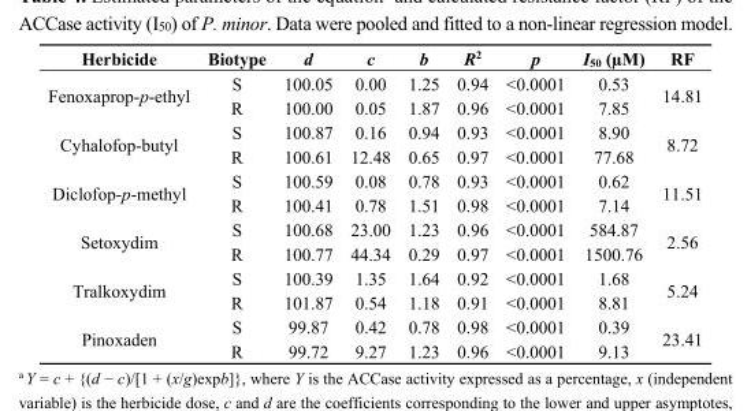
<table><thead><tr><td>Herbicide</td><td>Biotype</td><td>d</td><td>c</td><td>b</td><td>R<sup>2</sup></td><td>p</td><td>I<sub>50</sub> (µM)</td><td>RF</td></tr></thead><tbody><tr><td rowspan="2">Fenoxaprop-p-ethyl</td><td>S</td><td>100.05</td><td>0.00</td><td>1.25</td><td>0.94</td><td>&lt;0.0001</td><td>0.53</td><td rowspan="2">14.81</td></tr><tr><td>R</td><td>100.00</td><td>0.05</td><td>1.87</td><td>0.96</td><td>&lt;0.0001</td><td>7.85</td></tr><tr><td rowspan="2">Cyhalofop-butyl</td><td>S</td><td>100.87</td><td>0.16</td><td>0.94</td><td>0.93</td><td>&lt;0.0001</td><td>8.90</td><td rowspan="2">8.72</td></tr><tr><td>R</td><td>100.61</td><td>12.48</td><td>0.65</td><td>0.97</td><td>&lt;0.0001</td><td>77.68</td></tr><tr><td rowspan="2">Diclofop-p-methyl</td><td>S</td><td>100.59</td><td>0.08</td><td>0.78</td><td>0.93</td><td>&lt;0.0001</td><td>0.62</td><td rowspan="2">11.51</td></tr><tr><td>R</td><td>100.41</td><td>0.78</td><td>1.51</td><td>0.98</td><td>&lt;0.0001</td><td>7.14</td></tr><tr><td rowspan="2">Setoxydim</td><td>S</td><td>100.68</td><td>23.00</td><td>1.23</td><td>0.96</td><td>&lt;0.0001</td><td>584.87</td><td rowspan="2">2.56</td></tr><tr><td>R</td><td>100.77</td><td>44.34</td><td>0.29</td><td>0.97</td><td>&lt;0.0001</td><td>1500.76</td></tr><tr><td rowspan="2">Tralkoxydim</td><td>S</td><td>100.39</td><td>1.35</td><td>1.64</td><td>0.92</td><td>&lt;0.0001</td><td>1.68</td><td rowspan="2">5.24</td></tr><tr><td>R</td><td>101.87</td><td>0.54</td><td>1.18</td><td>0.91</td><td>&lt;0.0001</td><td>8.81</td></tr><tr><td rowspan="2">Pinoxaden</td><td>S</td><td>99.87</td><td>0.42</td><td>0.78</td><td>0.98</td><td>&lt;0.0001</td><td>0.39</td><td rowspan="2">23.41</td></tr><tr><td>R</td><td>99.72</td><td>9.27</td><td>1.23</td><td>0.96</td><td>&lt;0.0001</td><td>9.13</td></tr></tbody></table>